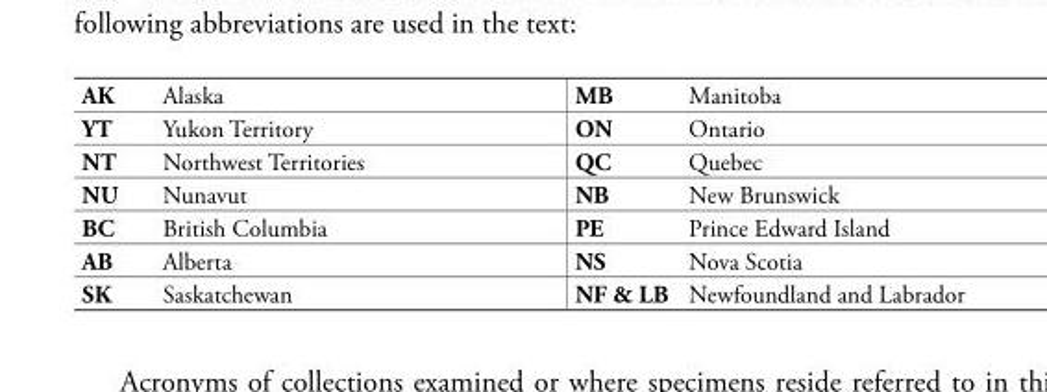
<table><tbody><tr><td>AK</td><td>Alaska</td><td>MB</td><td>Manitoba</td></tr><tr><td>YT</td><td>Yukon Territory</td><td>ON</td><td>Ontario</td></tr><tr><td>NT</td><td>Northwest Territories</td><td>QC</td><td>Quebec</td></tr><tr><td>NU</td><td>Nunavut</td><td>NB</td><td>New Brunswick</td></tr><tr><td>BC</td><td>British Columbia</td><td>PE</td><td>Prince Edward Island</td></tr><tr><td>AB</td><td>Alberta</td><td>NS</td><td>Nova Scotia</td></tr><tr><td>SK</td><td>Saskatchewan</td><td>NF &amp; LB</td><td>Newfoundland and Labrador</td></tr></tbody></table>